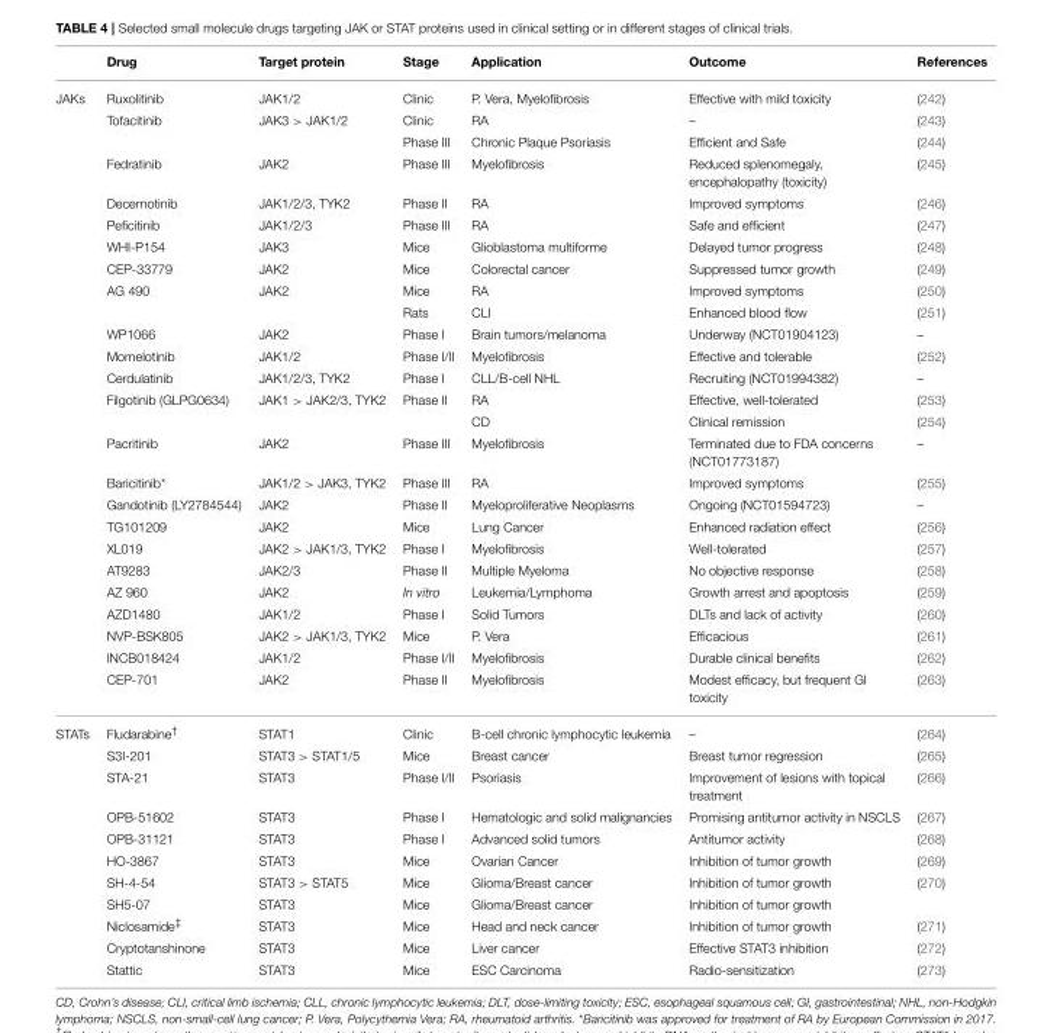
<table><thead><tr><td></td><td>Drug</td><td>Target protein</td><td>Stage</td><td>Application</td><td>Outcome</td><td>References</td></tr></thead><tbody><tr><td rowspan="26">JAKs</td><td>Ruxolitinib</td><td>JAK1/2</td><td>Clinic</td><td>P. Vera, Myelofibrosis</td><td>Effective with mild toxicity</td><td>(242)</td></tr><tr><td>Tofacitinib</td><td>JAK3 &gt; JAK1/2</td><td>Clinic</td><td>RA</td><td>–</td><td>(243)</td></tr><tr><td></td><td></td><td>Phase III</td><td>Chronic Plaque Psoriasis</td><td>Efficient and Safe</td><td>(244)</td></tr><tr><td>Fedratinib</td><td>JAK2</td><td>Phase III</td><td>Myelofibrosis</td><td>Reduced splenomegaly, encephalopathy (toxicity)</td><td>(245)</td></tr><tr><td>Decernotinib</td><td>JAK1/2/3, TYK2</td><td>Phase II</td><td>RA</td><td>Improved symptoms</td><td>(246)</td></tr><tr><td>Peficitinib</td><td>JAK1/2/3</td><td>Phase III</td><td>RA</td><td>Safe and efficient</td><td>(247)</td></tr><tr><td>WHI-P154</td><td>JAK3</td><td>Mice</td><td>Glioblastoma multiforme</td><td>Delayed tumor progress</td><td>(248)</td></tr><tr><td>CEP-33779</td><td>JAK2</td><td>Mice</td><td>Colorectal cancer</td><td>Suppressed tumor growth</td><td>(249)</td></tr><tr><td>AG 490</td><td>JAK2</td><td>Mice</td><td>RA</td><td>Improved symptoms</td><td>(250)</td></tr><tr><td></td><td></td><td>Rats</td><td>CLI</td><td>Enhanced blood flow</td><td>(251)</td></tr><tr><td>WP1066</td><td>JAK2</td><td>Phase I</td><td>Brain tumors/melanoma</td><td>Underway (NCT01904123)</td><td>–</td></tr><tr><td>Momelotinib</td><td>JAK1/2</td><td>Phase I/II</td><td>Myelofibrosis</td><td>Effective and tolerable</td><td>(252)</td></tr><tr><td>Cerdulatinib</td><td>JAK1/2/3, TYK2</td><td>Phase I</td><td>CLL/B-cell NHL</td><td>Recruiting (NCT01994382)</td><td>–</td></tr><tr><td>Filgotinib (GLPG0634)</td><td>JAK1 &gt; JAK2/3, TYK2</td><td>Phase II</td><td>RA</td><td>Effective, well-tolerated</td><td>(253)</td></tr><tr><td></td><td></td><td></td><td>CD</td><td>Clinical remission</td><td>(254)</td></tr><tr><td>Pacritinib</td><td>JAK2</td><td>Phase III</td><td>Myelofibrosis</td><td>Terminated due to FDA concerns (NCT01773187)</td><td>–</td></tr><tr><td>Baricitinib*</td><td>JAK1/2 &gt; JAK3, TYK2</td><td>Phase III</td><td>RA</td><td>Improved symptoms</td><td>(255)</td></tr><tr><td>Gandotinib (LY2784544)</td><td>JAK2</td><td>Phase II</td><td>Myeloproliferative Neoplasms</td><td>Ongoing (NCT01594723)</td><td>–</td></tr><tr><td>TG101209</td><td>JAK2</td><td>Mice</td><td>Lung Cancer</td><td>Enhanced radiation effect</td><td>(256)</td></tr><tr><td>XL019</td><td>JAK2 &gt; JAK1/3, TYK2</td><td>Phase I</td><td>Myelofibrosis</td><td>Well-tolerated</td><td>(257)</td></tr><tr><td>AT9283</td><td>JAK2/3</td><td>Phase II</td><td>Multiple Myeloma</td><td>No objective response</td><td>(258)</td></tr><tr><td>AZ 960</td><td>JAK2</td><td>In vitro</td><td>Leukemia/Lymphoma</td><td>Growth arrest and apoptosis</td><td>(259)</td></tr><tr><td>AZD1480</td><td>JAK1/2</td><td>Phase I</td><td>Solid Tumors</td><td>DLTs and lack of activity</td><td>(260)</td></tr><tr><td>NVP-BSK805</td><td>JAK2 &gt; JAK1/3, TYK2</td><td>Mice</td><td>P. Vera</td><td>Efficacious</td><td>(261)</td></tr><tr><td>INCB018424</td><td>JAK1/2</td><td>Phase I/II</td><td>Myelofibrosis</td><td>Durable clinical benefits</td><td>(262)</td></tr><tr><td>CEP-701</td><td>JAK2</td><td>Phase II</td><td>Myelofibrosis</td><td>Modest efficacy, but frequent GI toxicity</td><td>(263)</td></tr><tr><td rowspan="11">STATs</td><td>Fludarabine<sup>†</sup></td><td>STAT1</td><td>Clinic</td><td>B-cell chronic lymphocytic leukemia</td><td>–</td><td>(264)</td></tr><tr><td>S3I-201</td><td>STAT3 &gt; STAT1/5</td><td>Mice</td><td>Breast cancer</td><td>Breast tumor regression</td><td>(265)</td></tr><tr><td>STA-21</td><td>STAT3</td><td>Phase I/II</td><td>Psoriasis</td><td>Improvement of lesions with topical treatment</td><td>(266)</td></tr><tr><td>OPB-51602</td><td>STAT3</td><td>Phase I</td><td>Hematologic and solid malignancies</td><td>Promising antitumor activity in NSCLS</td><td>(267)</td></tr><tr><td>OPB-31121</td><td>STAT3</td><td>Phase I</td><td>Advanced solid tumors</td><td>Antitumor activity</td><td>(268)</td></tr><tr><td>HO-3867</td><td>STAT3</td><td>Mice</td><td>Ovarian Cancer</td><td>Inhibition of tumor growth</td><td>(269)</td></tr><tr><td>SH-4-54</td><td>STAT3 &gt; STAT5</td><td>Mice</td><td>Glioma/Breast cancer</td><td>Inhibition of tumor growth</td><td>(270)</td></tr><tr><td>SH5-07</td><td>STAT3</td><td>Mice</td><td>Glioma/Breast cancer</td><td>Inhibition of tumor growth</td><td></td></tr><tr><td>Niclosamide<sup>‡</sup></td><td>STAT3</td><td>Mice</td><td>Head and neck cancer</td><td>Inhibition of tumor growth</td><td>(271)</td></tr><tr><td>Cryptotanshinone</td><td>STAT3</td><td>Mice</td><td>Liver cancer</td><td>Effective STAT3 inhibition</td><td>(272)</td></tr><tr><td>Stattic</td><td>STAT3</td><td>Mice</td><td>ESC Carcinoma</td><td>Radio-sensitization</td><td>(273)</td></tr></tbody></table>